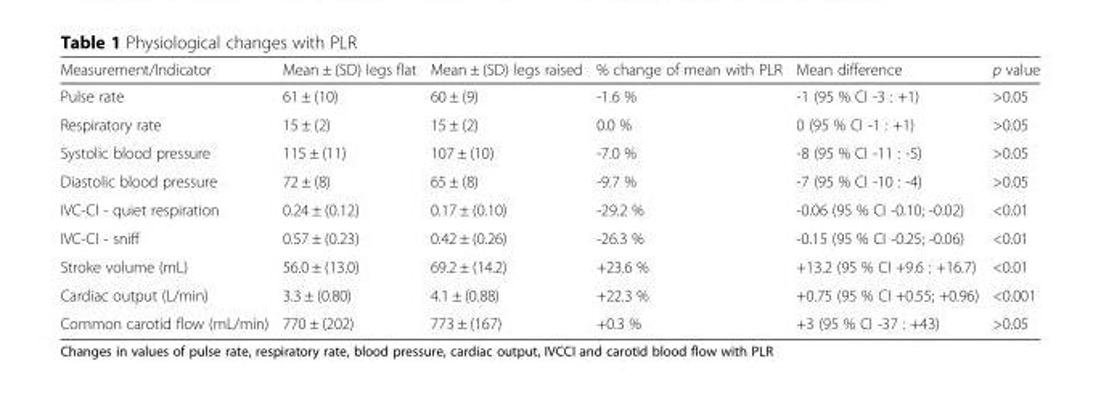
<table><thead><tr><td>Measurement/Indicator</td><td>Mean ± (SD) legs flat</td><td>Mean ± (SD) legs raised</td><td>% change of mean with PLR</td><td>Mean difference</td><td>p value</td></tr></thead><tbody><tr><td>Pulse rate</td><td>61 ± (10)</td><td>60 ± (9)</td><td>-1.6 %</td><td>-1 (95 % CI -3 : +1)</td><td>&gt;0.05</td></tr><tr><td>Respiratory rate</td><td>15 ± (2)</td><td>15 ± (2)</td><td>0.0 %</td><td>0 (95 % CI -1 : +1)</td><td>&gt;0.05</td></tr><tr><td>Systolic blood pressure</td><td>115 ± (11)</td><td>107 ± (10)</td><td>-7.0 %</td><td>-8 (95 % CI -11 : -5)</td><td>&gt;0.05</td></tr><tr><td>Diastolic blood pressure</td><td>72 ± (8)</td><td>65 ± (8)</td><td>-9.7 %</td><td>-7 (95 % CI -10 : -4)</td><td>&gt;0.05</td></tr><tr><td>IVC-CI - quiet respiration</td><td>0.24 ± (0.12)</td><td>0.17 ± (0.10)</td><td>-29.2 %</td><td>-0.06 (95 % CI -0.10; -0.02)</td><td>&lt;0.01</td></tr><tr><td>IVC-CI - sniff</td><td>0.57 ± (0.23)</td><td>0.42 ± (0.26)</td><td>-26.3 %</td><td>-0.15 (95 % CI -0.25; -0.06)</td><td>&lt;0.01</td></tr><tr><td>Stroke volume (mL)</td><td>56.0 ± (13.0)</td><td>69.2 ± (14.2)</td><td>+23.6 %</td><td>+13.2 (95 % CI +9.6 : +16.7)</td><td>&lt;0.01</td></tr><tr><td>Cardiac output (L/min)</td><td>3.3 ± (0.80)</td><td>4.1 ± (0.88)</td><td>+22.3 %</td><td>+0.75 (95 % CI +0.55; +0.96)</td><td>&lt;0.001</td></tr><tr><td>Common carotid flow (mL/min)</td><td>770 ± (202)</td><td>773 ± (167)</td><td>+0.3 %</td><td>+3 (95 % CI -37 : +43)</td><td>&gt;0.05</td></tr></tbody></table>